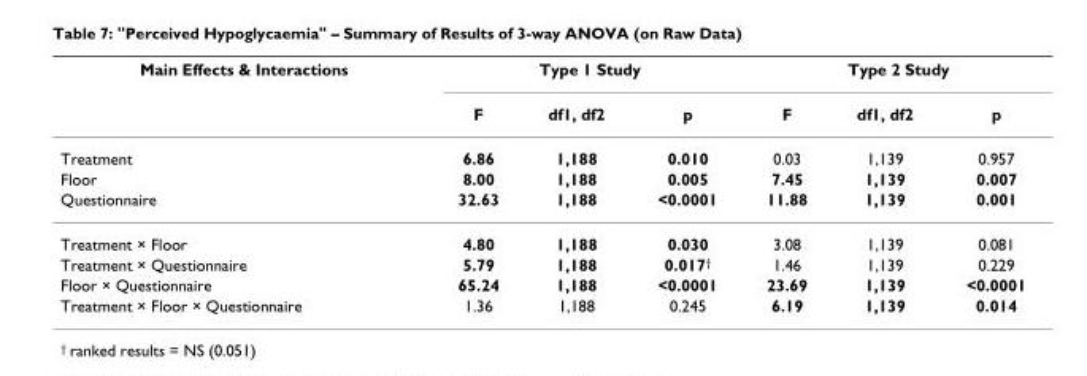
<table><thead><tr><td rowspan="2">Main Effects &amp; Interactions</td><td colspan="3">Type 1 Study</td><td colspan="3">Type 2 Study</td></tr><tr><td>F</td><td>df1, df2</td><td>p</td><td>F</td><td>df1, df2</td><td>p</td></tr></thead><tbody><tr><td>Treatment</td><td>6.86</td><td>1,188</td><td>0.010</td><td>0.03</td><td>1,139</td><td>0.957</td></tr><tr><td>Floor</td><td>8.00</td><td>1,188</td><td>0.005</td><td>7.45</td><td>1,139</td><td>0.007</td></tr><tr><td>Questionnaire</td><td>32.63</td><td>1,188</td><td>&lt;0.0001</td><td>11.88</td><td>1,139</td><td>0.001</td></tr><tr><td>Treatment × Floor</td><td>4.80</td><td>1,188</td><td>0.030</td><td>3.08</td><td>1,139</td><td>0.081</td></tr><tr><td>Treatment × Questionnaire</td><td>5.79</td><td>1,188</td><td>0.017<sup>†</sup></td><td>1.46</td><td>1,139</td><td>0.229</td></tr><tr><td>Floor × Questionnaire</td><td>65.24</td><td>1,188</td><td>&lt;0.0001</td><td>23.69</td><td>1,139</td><td>&lt;0.0001</td></tr><tr><td>Treatment × Floor × Questionnaire</td><td>1.36</td><td>1,188</td><td>0.245</td><td>6.19</td><td>1,139</td><td>0.014</td></tr></tbody></table>